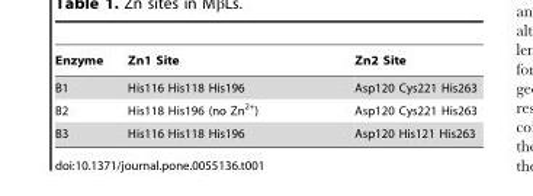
<table><thead><tr><td>Enzyme</td><td>Zn1 Site</td><td>Zn2 Site</td></tr></thead><tbody><tr><td>B1</td><td>His116 His118 His196</td><td>Asp120 Cys221 His263</td></tr><tr><td>B2</td><td>His118 His196 (no Zn<sup>2+</sup>)</td><td>Asp120 Cys221 His263</td></tr><tr><td>B3</td><td>His116 His118 His196</td><td>Asp120 His121 His263</td></tr></tbody></table>